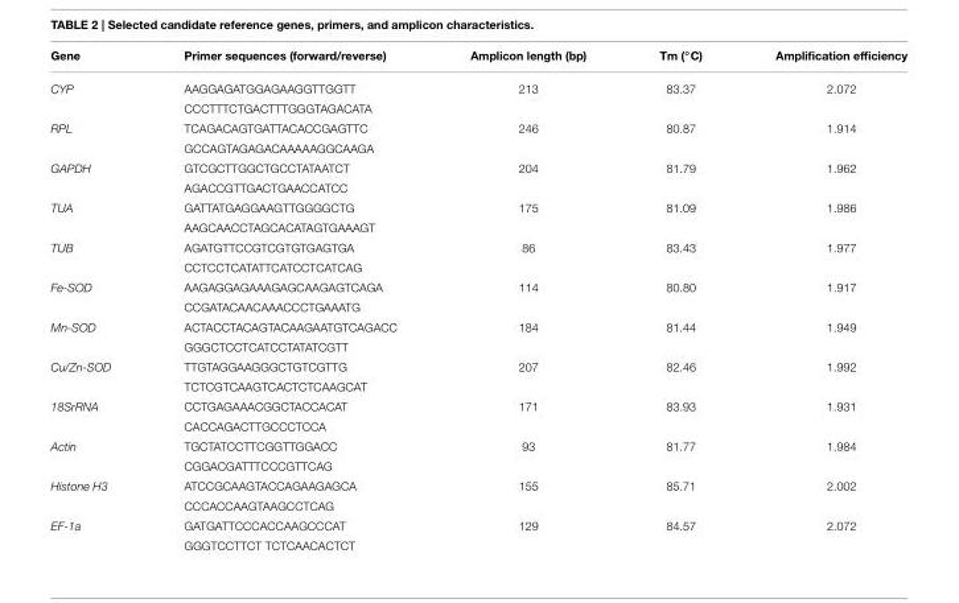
<table><thead><tr><td>Gene</td><td>Primer sequences (forward/reverse)</td><td>Amplicon length (bp)</td><td>Tm (◦C)</td><td>Amplification efficiency</td></tr></thead><tbody><tr><td rowspan="2">CYP</td><td>AAGGAGATGGAGAAGGTTGGTT</td><td>213</td><td>83.37</td><td>2.072</td></tr><tr><td>CCCTTTCTGACTTTGGGTAGACATA</td><td></td><td></td><td></td></tr><tr><td rowspan="2">RPL</td><td>TCAGACAGTGATTACACCGAGTTC</td><td>246</td><td>80.87</td><td>1.914</td></tr><tr><td>GCCAGTAGAGACAAAAAGGCAAGA</td><td></td><td></td><td></td></tr><tr><td rowspan="2">GAPDH</td><td>GTCGCTTGGCTGCCTATAATCT</td><td>204</td><td>81.79</td><td>1.962</td></tr><tr><td>AGACCGTTGACTGAACCATCC</td><td></td><td></td><td></td></tr><tr><td rowspan="2">TUA</td><td>GATTATGAGGAAGTTGGGGCTG</td><td>175</td><td>81.09</td><td>1.986</td></tr><tr><td>AAGCAACCTAGCACATAGTGAAAGT</td><td></td><td></td><td></td></tr><tr><td rowspan="2">TUB</td><td>AGATGTTCCGTCGTGTGAGTGA</td><td>86</td><td>83.43</td><td>1.977</td></tr><tr><td>CCTCCTCATATTCATCCTCATCAG</td><td></td><td></td><td></td></tr><tr><td rowspan="2">Fe-SOD</td><td>AAGAGGAGAAAGAGCAAGAGTCAGA</td><td>114</td><td>80.80</td><td>1.917</td></tr><tr><td>CCGATACAACAAACCCTGAAATG</td><td></td><td></td><td></td></tr><tr><td rowspan="2">Mn-SOD</td><td>ACTACCTACAGTACAAGAATGTCAGACC</td><td>184</td><td>81.44</td><td>1.949</td></tr><tr><td>GGGCTCCTCATCCTATATCGTT</td><td></td><td></td><td></td></tr><tr><td rowspan="2">Cu/Zn-SOD</td><td>TTGTAGGAAGGGCTGTCGTTG</td><td>207</td><td>82.46</td><td>1.992</td></tr><tr><td>TCTCGTCAAGTCACTCTCAAGCAT</td><td></td><td></td><td></td></tr><tr><td rowspan="2">18SrRNA</td><td>CCTGAGAAACGGCTACCACAT</td><td>171</td><td>83.93</td><td>1.931</td></tr><tr><td>CACCAGACTTGCCCTCCA</td><td></td><td></td><td></td></tr><tr><td rowspan="2">Actin</td><td>TGCTATCCTTCGGTTGGACC</td><td>93</td><td>81.77</td><td>1.984</td></tr><tr><td>CGGACGATTTCCCGTTCAG</td><td></td><td></td><td></td></tr><tr><td rowspan="2">Histone H3</td><td>ATCCGCAAGTACCAGAAGAGCA</td><td>155</td><td>85.71</td><td>2.002</td></tr><tr><td>CCCACCAAGTAAGCCTCAG</td><td></td><td></td><td></td></tr><tr><td rowspan="2">EF-1a</td><td>GATGATTCCCACCAAGCCCAT</td><td>129</td><td>84.57</td><td>2.072</td></tr><tr><td>GGGTCCTTCT TCTCAACACTCT</td><td></td><td></td><td></td></tr></tbody></table>